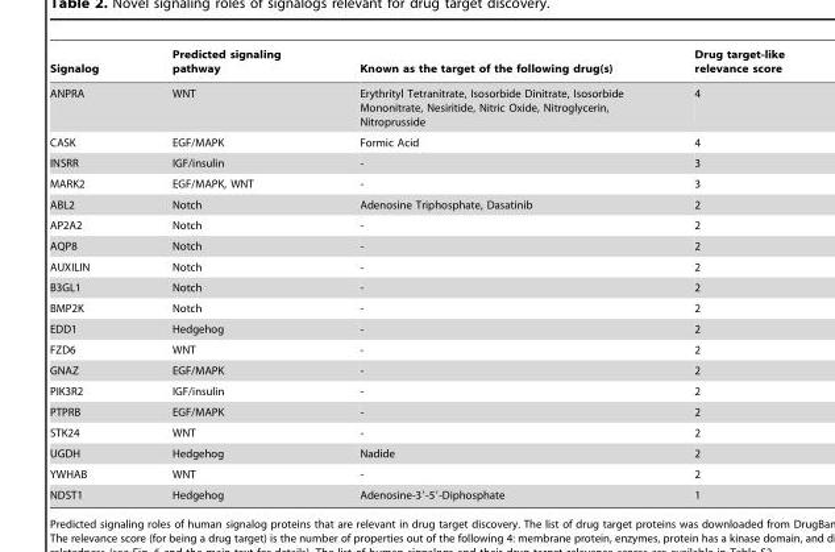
<table><thead><tr><td>Signalog</td><td>Predicted signaling pathway</td><td>Known as the target of the following drug(s)</td><td>Drug target-like relevance score</td></tr></thead><tbody><tr><td>ANPRA</td><td>WNT</td><td>Erythrityl Tetranitrate, Isosorbide Dinitrate, Isosorbide Mononitrate, Nesiritide, Nitric Oxide, Nitroglycerin, Nitroprusside</td><td>4</td></tr><tr><td>CASK</td><td>EGF/MAPK</td><td>Formic Acid</td><td>4</td></tr><tr><td>INSRR</td><td>IGF/insulin</td><td>-</td><td>3</td></tr><tr><td>MARK2</td><td>EGF/MAPK, WNT</td><td>-</td><td>3</td></tr><tr><td>ABL2</td><td>Notch</td><td>Adenosine Triphosphate, Dasatinib</td><td>2</td></tr><tr><td>AP2A2</td><td>Notch</td><td>-</td><td>2</td></tr><tr><td>AQP8</td><td>Notch</td><td>-</td><td>2</td></tr><tr><td>AUXILIN</td><td>Notch</td><td>-</td><td>2</td></tr><tr><td>B3GL1</td><td>Notch</td><td>-</td><td>2</td></tr><tr><td>BMP2K</td><td>Notch</td><td>-</td><td>2</td></tr><tr><td>EDD1</td><td>Hedgehog</td><td>-</td><td>2</td></tr><tr><td>FZD6</td><td>WNT</td><td>-</td><td>2</td></tr><tr><td>GNAZ</td><td>EGF/MAPK</td><td>-</td><td>2</td></tr><tr><td>PIK3R2</td><td>IGF/insulin</td><td>-</td><td>2</td></tr><tr><td>PTPRB</td><td>EGF/MAPK</td><td>-</td><td>2</td></tr><tr><td>STK24</td><td>WNT</td><td>-</td><td>2</td></tr><tr><td>UGDH</td><td>Hedgehog</td><td>Nadide</td><td>2</td></tr><tr><td>YWHAB</td><td>WNT</td><td>-</td><td>2</td></tr><tr><td>NDST1</td><td>Hedgehog</td><td>Adenosine-3′-5′-Diphosphate</td><td>1</td></tr></tbody></table>